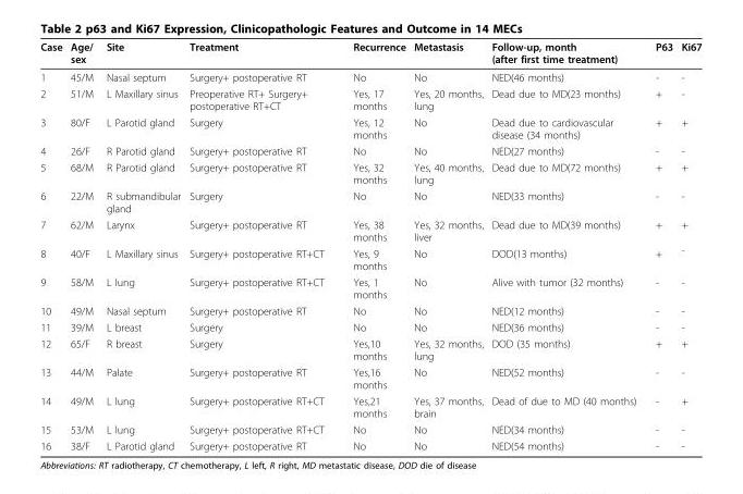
<table><thead><tr><td>Case</td><td>Age/ sex</td><td>Site</td><td>Treatment</td><td>Recurrence</td><td>Metastasis</td><td>Follow-up, month (after first time treatment)</td><td>P63</td><td>Ki67</td></tr></thead><tbody><tr><td>1</td><td>45/M</td><td>Nasal septum</td><td>Surgery+ postoperative RT</td><td>No</td><td>No</td><td>NED(46 months)</td><td>-</td><td>-</td></tr><tr><td>2</td><td>51/M</td><td>L Maxillary sinus</td><td>Preoperative RT+ Surgery+ postoperative RT+CT</td><td>Yes, 17 months</td><td>Yes, 20 months, lung</td><td>Dead due to MD(23 months)</td><td>+</td><td>-</td></tr><tr><td>3</td><td>80/F</td><td>L Parotid gland</td><td>Surgery</td><td>Yes, 12 months</td><td>No</td><td>Dead due to cardiovascular disease (34 months)</td><td>+</td><td>+</td></tr><tr><td>4</td><td>26/F</td><td>R Parotid gland</td><td>Surgery+ postoperative RT</td><td>No</td><td>No</td><td>NED(27 months)</td><td>-</td><td>-</td></tr><tr><td>5</td><td>68/M</td><td>R Parotid gland</td><td>Surgery+ postoperative RT</td><td>Yes, 32 months</td><td>Yes, 40 months, lung</td><td>Dead due to MD(72 months)</td><td>+</td><td>+</td></tr><tr><td>6</td><td>22/M</td><td>R submandibular gland</td><td>Surgery</td><td>No</td><td>No</td><td>NED(33 months)</td><td>-</td><td>-</td></tr><tr><td>7</td><td>62/M</td><td>Larynx</td><td>Surgery+ postoperative RT</td><td>Yes, 38 months</td><td>Yes, 32 months, liver</td><td>Dead due to MD(39 months)</td><td>+</td><td>+</td></tr><tr><td>8</td><td>40/F</td><td>L Maxillary sinus</td><td>Surgery+ postoperative RT+CT</td><td>Yes, 9 months</td><td>No</td><td>DOD(13 months)</td><td>+</td><td>¯</td></tr><tr><td>9</td><td>58/M</td><td>L lung</td><td>Surgery+ postoperative RT+CT</td><td>Yes, 1 months</td><td>No</td><td>Alive with tumor (32 months)</td><td>-</td><td>-</td></tr><tr><td>10</td><td>49/M</td><td>Nasal septum</td><td>Surgery+ postoperative RT</td><td>No</td><td>No</td><td>NED(12 months)</td><td>-</td><td>-</td></tr><tr><td>11</td><td>39/M</td><td>L breast</td><td>Surgery</td><td>No</td><td>No</td><td>NED(36 months)</td><td>-</td><td>-</td></tr><tr><td>12</td><td>65/F</td><td>R breast</td><td>Surgery</td><td>Yes,10 months</td><td>Yes, 32 months, lung</td><td>DOD (35 months)</td><td>+</td><td>+</td></tr><tr><td>13</td><td>44/M</td><td>Palate</td><td>Surgery+ postoperative RT</td><td>Yes,16 months</td><td>No</td><td>NED(52 months)</td><td>-</td><td>-</td></tr><tr><td>14</td><td>49/M</td><td>L lung</td><td>Surgery+ postoperative RT+CT</td><td>Yes,21 months</td><td>Yes, 37 months, brain</td><td>Dead of due to MD (40 months)</td><td>-</td><td>+</td></tr><tr><td>15</td><td>53/M</td><td>L lung</td><td>Surgery+ postoperative RT+CT</td><td>No</td><td>No</td><td>NED(34 months)</td><td>-</td><td>-</td></tr><tr><td>16</td><td>38/F</td><td>L Parotid gland</td><td>Surgery+ postoperative RT</td><td>No</td><td>No</td><td>NED(54 months)</td><td>-</td><td>-</td></tr></tbody></table>